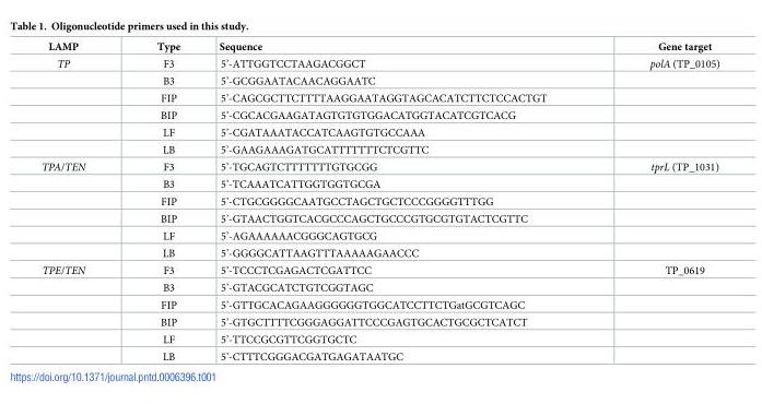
<table><thead><tr><td>LAMP</td><td>Type</td><td>Sequence</td><td>Gene target</td></tr></thead><tbody><tr><td rowspan="6">TP</td><td>F3</td><td>5’-ATTGGTCCTAAGACGGCT</td><td>polA (TP_0105)</td></tr><tr><td>B3</td><td>5’-GCGGAATACAACAGGAATC</td><td></td></tr><tr><td>FIP</td><td>5’-CAGCGCTTCTTTTAAGGAATAGGTAGCACATCTTCTCCACTGT</td><td></td></tr><tr><td>BIP</td><td>5’-CGCACGAAGATAGTGTGTGGACATGGTACATCGTCACG</td><td></td></tr><tr><td>LF</td><td>5’-CGATAAATACCATCAAGTGTGCCAAA</td><td></td></tr><tr><td>LB</td><td>5’-GAAGAAAGATGCATTTTTTTCTCGTTC</td><td></td></tr><tr><td rowspan="6">TPA/TEN</td><td>F3</td><td>5’-TGCAGTCTTTTTTTGTGCGG</td><td>tprL (TP_1031)</td></tr><tr><td>B3</td><td>5’-TCAAATCATTGGTGGTGCGA</td><td></td></tr><tr><td>FIP</td><td>5’-CTGCGGGGCAATGCCTAGCTGCTCCCGGGGTTTGG</td><td></td></tr><tr><td>BIP</td><td>5’-GTAACTGGTCACGCCCAGCTGCCCGTGCGTGTACTCGTTC</td><td></td></tr><tr><td>LF</td><td>5’-AGAAAAAACGGGCAGTGCG</td><td></td></tr><tr><td>LB</td><td>5’-GGGGCATTAAGTTTAAAAAGAACCC</td><td></td></tr><tr><td rowspan="6">TPE/TEN</td><td>F3</td><td>5’-TCCCTCGAGACTCGATTCC</td><td>TP_0619</td></tr><tr><td>B3</td><td>5’-GTACGCATCTGTCGGTAGC</td><td></td></tr><tr><td>FIP</td><td>5’-GTTGCACAGAAGGGGGGTGGCATCCTTCTGatGCGTCAGC</td><td></td></tr><tr><td>BIP</td><td>5’-GTGCTTTTCGGGAGGATTCCCGAGTGCACTGCGCTCATCT</td><td></td></tr><tr><td>LF</td><td>5’-TTCCGCGTTCGGTGCTC</td><td></td></tr><tr><td>LB</td><td>5’-CTTTCGGGACGATGAGATAATGC</td><td></td></tr></tbody></table>